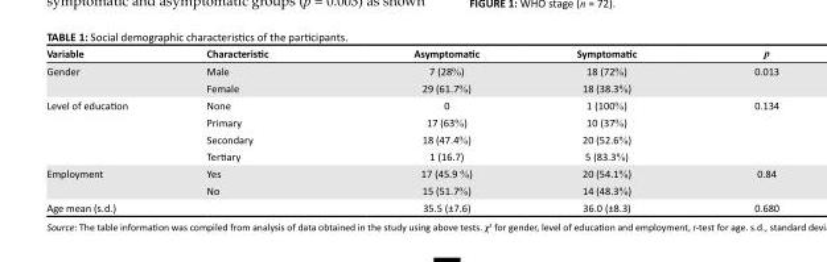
<table><thead><tr><td>Variable</td><td>Characteristic</td><td>Asymptomatic</td><td>Symptomatic</td><td>p</td></tr></thead><tbody><tr><td rowspan="2">Gender</td><td>Male</td><td>7 (28%)</td><td>18 (72%)</td><td>0.013</td></tr><tr><td>Female</td><td>29 (61.7%)</td><td>18 (38.3%)</td><td></td></tr><tr><td rowspan="4">Level of education</td><td>None</td><td>0</td><td>1 (100%)</td><td>0.134</td></tr><tr><td>Primary</td><td>17 (63%)</td><td>10 (37%)</td><td></td></tr><tr><td>Secondary</td><td>18 (47.4%)</td><td>20 (52.6%)</td><td></td></tr><tr><td>Tertiary</td><td>1 (16.7)</td><td>5 (83.3%)</td><td></td></tr><tr><td rowspan="2">Employment</td><td>Yes</td><td>17 (45.9 %)</td><td>20 (54.1%)</td><td>0.84</td></tr><tr><td>No</td><td>15 (51.7%)</td><td>14 (48.3%)</td><td></td></tr><tr><td>Age mean (s.d.)</td><td></td><td>35.5 (±7.6)</td><td>36.0 (±8.3)</td><td>0.680</td></tr></tbody></table>